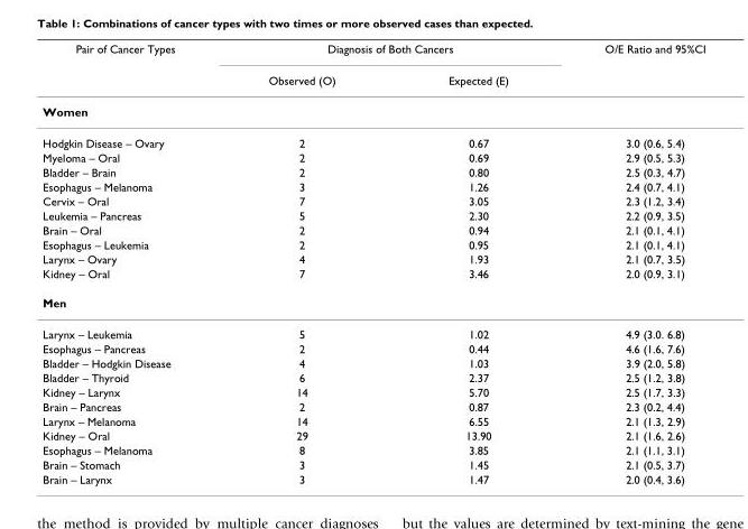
<table><thead><tr><td rowspan="2">Pair of Cancer Types</td><td colspan="2">Diagnosis of Both Cancers</td><td rowspan="2">O/E Ratio and 95%CI</td></tr><tr><td>Observed (O)</td><td>Expected (E)</td></tr></thead><tbody><tr><td colspan="4">Women</td></tr><tr><td>Hodgkin Disease – Ovary</td><td>2</td><td>0.67</td><td>3.0 (0.6, 5.4)</td></tr><tr><td>Myeloma – Oral</td><td>2</td><td>0.69</td><td>2.9 (0.5, 5.3)</td></tr><tr><td>Bladder – Brain</td><td>2</td><td>0.80</td><td>2.5 (0.3, 4.7)</td></tr><tr><td>Esophagus – Melanoma</td><td>3</td><td>1.26</td><td>2.4 (0.7, 4.1)</td></tr><tr><td>Cervix – Oral</td><td>7</td><td>3.05</td><td>2.3 (1.2, 3.4)</td></tr><tr><td>Leukemia – Pancreas</td><td>5</td><td>2.30</td><td>2.2 (0.9, 3.5)</td></tr><tr><td>Brain – Oral</td><td>2</td><td>0.94</td><td>2.1 (0.1, 4.1)</td></tr><tr><td>Esophagus – Leukemia</td><td>2</td><td>0.95</td><td>2.1 (0.1, 4.1)</td></tr><tr><td>Larynx – Ovary</td><td>4</td><td>1.93</td><td>2.1 (0.7, 3.5)</td></tr><tr><td>Kidney – Oral</td><td>7</td><td>3.46</td><td>2.0 (0.9, 3.1)</td></tr><tr><td colspan="4">Men</td></tr><tr><td>Larynx – Leukemia</td><td>5</td><td>1.02</td><td>4.9 (3.0. 6.8)</td></tr><tr><td>Esophagus – Pancreas</td><td>2</td><td>0.44</td><td>4.6 (1.6, 7.6)</td></tr><tr><td>Bladder – Hodgkin Disease</td><td>4</td><td>1.03</td><td>3.9 (2.0, 5.8)</td></tr><tr><td>Bladder – Thyroid</td><td>6</td><td>2.37</td><td>2.5 (1.2, 3.8)</td></tr><tr><td>Kidney – Larynx</td><td>14</td><td>5.70</td><td>2.5 (1.7, 3.3)</td></tr><tr><td>Brain – Pancreas</td><td>2</td><td>0.87</td><td>2.3 (0.2, 4.4)</td></tr><tr><td>Larynx – Melanoma</td><td>14</td><td>6.55</td><td>2.1 (1.3, 2.9)</td></tr><tr><td>Kidney – Oral</td><td>29</td><td>13.90</td><td>2.1 (1.6, 2.6)</td></tr><tr><td>Esophagus – Melanoma</td><td>8</td><td>3.85</td><td>2.1 (1.1, 3.1)</td></tr><tr><td>Brain – Stomach</td><td>3</td><td>1.45</td><td>2.1 (0.5, 3.7)</td></tr><tr><td>Brain – Larynx</td><td>3</td><td>1.47</td><td>2.0 (0.4, 3.6)</td></tr></tbody></table>